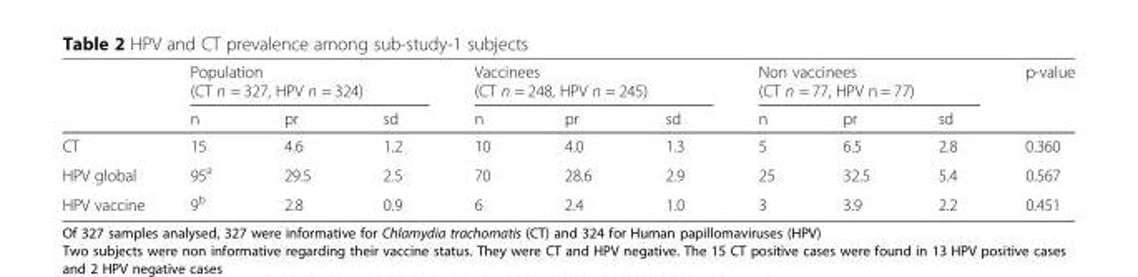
<table><thead><tr><td rowspan="2"></td><td colspan="3">Population (CT n = 327, HPV n = 324)</td><td colspan="3">Vaccinees (CT n = 248, HPV n = 245)</td><td colspan="3">Non vaccinees (CT n = 77, HPV n = 77)</td><td rowspan="2">p-value</td></tr><tr><td>n</td><td>pr</td><td>sd</td><td>n</td><td>pr</td><td>sd</td><td>n</td><td>pr</td><td>sd</td></tr></thead><tbody><tr><td>CT</td><td>15</td><td>4.6</td><td>1.2</td><td>10</td><td>4.0</td><td>1.3</td><td>5</td><td>6.5</td><td>2.8</td><td>0.360</td></tr><tr><td>HPV global</td><td>95<sup>a</sup></td><td>29.5</td><td>2.5</td><td>70</td><td>28.6</td><td>2.9</td><td>25</td><td>32.5</td><td>5.4</td><td>0.567</td></tr><tr><td>HPV vaccine</td><td>9<sup>b</sup></td><td>2.8</td><td>0.9</td><td>6</td><td>2.4</td><td>1.0</td><td>3</td><td>3.9</td><td>2.2</td><td>0.451</td></tr></tbody></table>